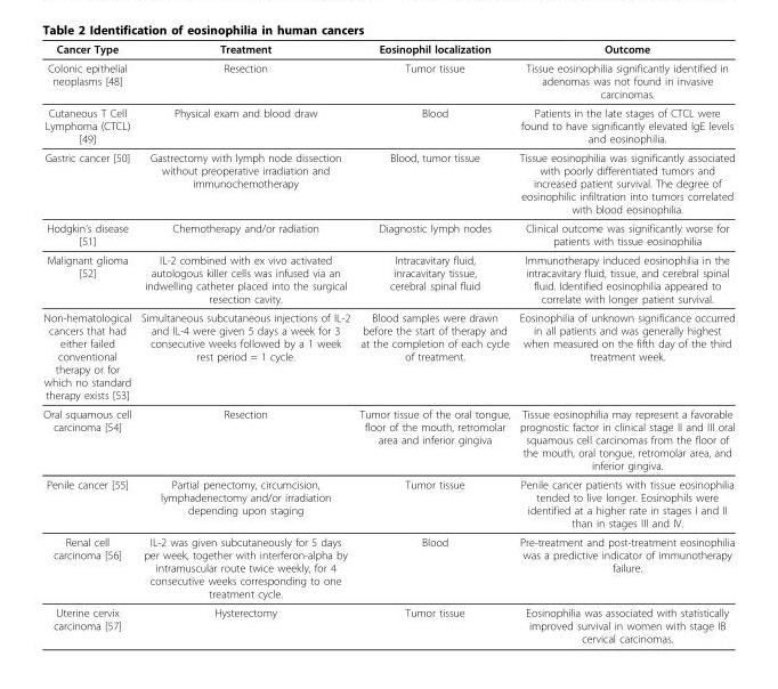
<table><thead><tr><td>Cancer Type</td><td>Treatment</td><td>Eosinophil localization</td><td>Outcome</td></tr></thead><tbody><tr><td>Colonic epithelial neoplasms [48]</td><td>Resection</td><td>Tumor tissue</td><td>Tissue eosinophilia significantly identified in adenomas was not found in invasive carcinomas.</td></tr><tr><td>Cutaneous T Cell Lymphoma (CTCL) [49]</td><td>Physical exam and blood draw</td><td>Blood</td><td>Patients in the late stages of CTCL were found to have significantly elevated IgE levels and eosinophilia.</td></tr><tr><td>Gastric cancer [50]</td><td>Gastrectomy with lymph node dissection without preoperative irradiation and immunochemotherapy</td><td>Blood, tumor tissue</td><td>Tissue eosinophilia was significantly associated with poorly differentiated tumors and increased patient survival. The degree of eosinophilic infiltration into tumors correlated with blood eosinophilia.</td></tr><tr><td>Hodgkin’s disease [51]</td><td>Chemotherapy and/or radiation</td><td>Diagnostic lymph nodes</td><td>Clinical outcome was significantly worse for patients with tissue eosinophilia</td></tr><tr><td>Malignant glioma [52]</td><td>IL-2 combined with ex vivo activated autologous killer cells was infused via an indwelling catheter placed into the surgical resection cavity.</td><td>Intracavitary fluid, inracavitary tissue, cerebral spinal fluid</td><td>Immunotherapy induced eosinophilia in the intracavitary fluid, tissue, and cerebral spinal fluid. Identified eosinophilia appeared to correlate with longer patient survival.</td></tr><tr><td>Non-hematological cancers that had either failed conventional therapy or for which no standard therapy exists [53]</td><td>Simultaneous subcutaneous injections of IL-2 and IL-4 were given 5 days a week for 3 consecutive weeks followed by a 1 week rest period = 1 cycle.</td><td>Blood samples were drawn before the start of therapy and at the completion of each cycle of treatment.</td><td>Eosinophilia of unknown significance occurred in all patients and was generally highest when measured on the fifth day of the third treatment week.</td></tr><tr><td>Oral squamous cell carcinoma [54]</td><td>Resection</td><td>Tumor tissue of the oral tongue, floor of the mouth, retromolar area and inferior gingiva</td><td>Tissue eosinophilia may represent a favorable prognostic factor in clinical stage II and III oral squamous cell carcinomas from the floor of the mouth, oral tongue, retromolar area, and inferior gingiva.</td></tr><tr><td>Penile cancer [55]</td><td>Partial penectomy, circumcision, lymphadenectomy and/or irradiation depending upon staging</td><td>Tumor tissue</td><td>Penile cancer patients with tissue eosinophilia tended to live longer. Eosinophils were identified at a higher rate in stages I and II than in stages III and IV.</td></tr><tr><td>Renal cell carcinoma [56]</td><td>IL-2 was given subcutaneously for 5 days per week, together with interferon-alpha by intramuscular route twice weekly, for 4 consecutive weeks corresponding to one treatment cycle.</td><td>Blood</td><td>Pre-treatment and post-treatment eosinophilia was a predictive indicator of immunotherapy failure.</td></tr><tr><td>Uterine cervix carcinoma [57]</td><td>Hysterectomy</td><td>Tumor tissue</td><td>Eosinophilia was associated with statistically improved survival in women with stage IB cervical carcinomas.</td></tr></tbody></table>